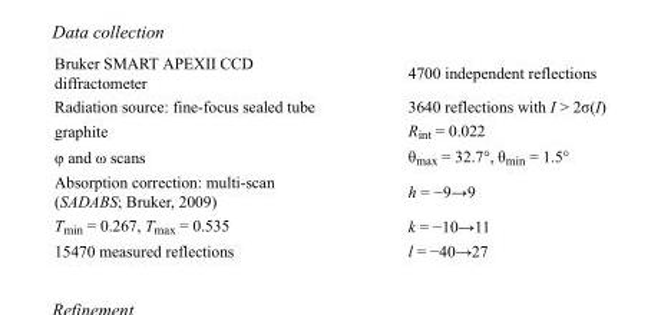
<table><tbody><tr><td>Bruker SMART APEXII CCD diffractometer</td><td>4700 independent reflections</td></tr><tr><td>Radiation source: fine-focus sealed tube</td><td>3640 reflections with I &gt; 2σ(I)</td></tr><tr><td>graphite</td><td>R<sub>int</sub> = 0.022</td></tr><tr><td>φ and ω scans</td><td>θ<sub>max</sub> = 32.7°, θ<sub>min</sub> = 1.5°</td></tr><tr><td>Absorption correction: multi-scan (SADABS; Bruker, 2009)</td><td>h = −9→9</td></tr><tr><td>T<sub>min</sub> = 0.267, T<sub>max</sub> = 0.535</td><td>k = −10→11</td></tr><tr><td>15470 measured reflections</td><td>l = −40→27</td></tr></tbody></table>